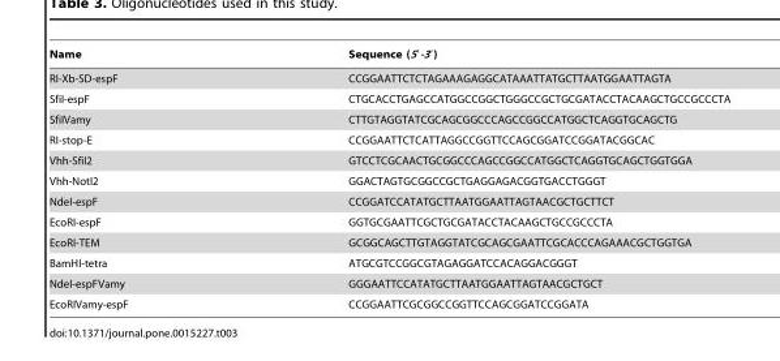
<table><thead><tr><td>Name</td><td>Sequence (5′-3′)</td></tr></thead><tbody><tr><td>RI-Xb-SD-espF</td><td>CCGGAATTCTCTAGAAAGAGGCATAAATTATGCTTAATGGAATTAGTA</td></tr><tr><td>SfiI-espF</td><td>CTGCACCTGAGCCATGGCCGGCTGGGCCGCTGCGATACCTACAAGCTGCCGCCCTA</td></tr><tr><td>SfiIVamy</td><td>CTTGTAGGTATCGCAGCGGCCCAGCCGGCCATGGCTCAGGTGCAGCTG</td></tr><tr><td>RI-stop-E</td><td>CCGGAATTCTCATTAGGCCGGTTCCAGCGGATCCGGATACGGCAC</td></tr><tr><td>Vhh-SfiI2</td><td>GTCCTCGCAACTGCGGCCCAGCCGGCCATGGCTCAGGTGCAGCTGGTGGA</td></tr><tr><td>Vhh-NotI2</td><td>GGACTAGTGCGGCCGCTGAGGAGACGGTGACCTGGGT</td></tr><tr><td>NdeI-espF</td><td>CCGGATCCATATGCTTAATGGAATTAGTAACGCTGCTTCT</td></tr><tr><td>EcoRI-espF</td><td>GGTGCGAATTCGCTGCGATACCTACAAGCTGCCGCCCTA</td></tr><tr><td>EcoRI-TEM</td><td>GCGGCAGCTTGTAGGTATCGCAGCGAATTCGCACCCAGAAACGCTGGTGA</td></tr><tr><td>BamHI-tetra</td><td>ATGCGTCCGGCGTAGAGGATCCACAGGACGGGT</td></tr><tr><td>NdeI-espFVamy</td><td>GGGAATTCCATATGCTTAATGGAATTAGTAACGCTGCT</td></tr><tr><td>EcoRIVamy-espF</td><td>CCGGAATTCGCGGCCGGTTCCAGCGGATCCGGATA</td></tr></tbody></table>